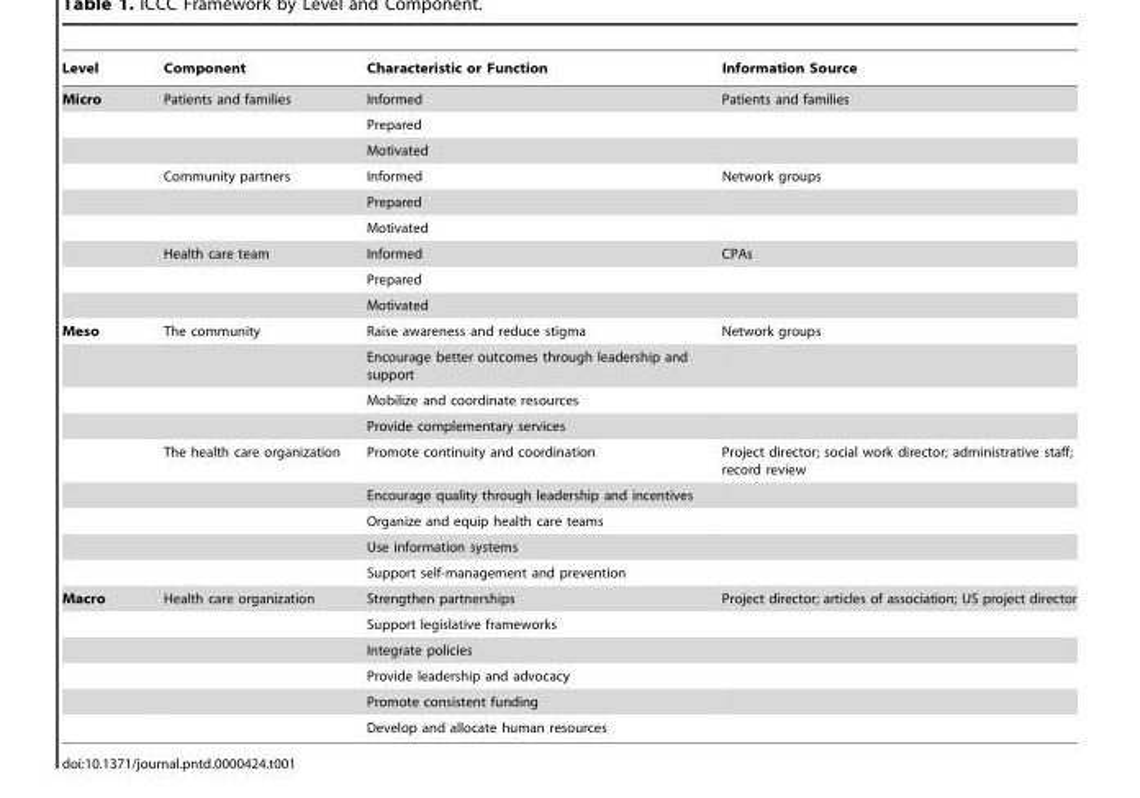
<table><thead><tr><td>Level</td><td>Component</td><td>Characteristic or Function</td><td>Information Source</td></tr></thead><tbody><tr><td rowspan="9">Micro</td><td>Patients and families</td><td>Informed</td><td>Patients and families</td></tr><tr><td></td><td>Prepared</td><td></td></tr><tr><td></td><td>Motivated</td><td></td></tr><tr><td>Community partners</td><td>Informed</td><td>Network groups</td></tr><tr><td></td><td>Prepared</td><td></td></tr><tr><td></td><td>Motivated</td><td></td></tr><tr><td>Health care team</td><td>Informed</td><td>CPAs</td></tr><tr><td></td><td>Prepared</td><td></td></tr><tr><td></td><td>Motivated</td><td></td></tr><tr><td rowspan="9">Meso</td><td>The community</td><td>Raise awareness and reduce stigma</td><td>Network groups</td></tr><tr><td></td><td>Encourage better outcomes through leadership and support</td><td></td></tr><tr><td></td><td>Mobilize and coordinate resources</td><td></td></tr><tr><td></td><td>Provide complementary services</td><td></td></tr><tr><td>The health care organization</td><td>Promote continuity and coordination</td><td>Project director; social work director; administrative staff; record review</td></tr><tr><td></td><td>Encourage quality through leadership and incentives</td><td></td></tr><tr><td></td><td>Organize and equip health care teams</td><td></td></tr><tr><td></td><td>Use information systems</td><td></td></tr><tr><td></td><td>Support self-management and prevention</td><td></td></tr><tr><td rowspan="6">Macro</td><td>Health care organization</td><td>Strengthen partnerships</td><td>Project director; articles of association; US project director</td></tr><tr><td></td><td>Support legislative frameworks</td><td></td></tr><tr><td></td><td>Integrate policies</td><td></td></tr><tr><td></td><td>Provide leadership and advocacy</td><td></td></tr><tr><td></td><td>Promote consistent funding</td><td></td></tr><tr><td></td><td>Develop and allocate human resources</td><td></td></tr></tbody></table>